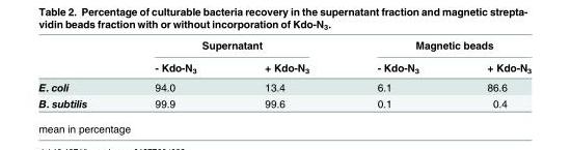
<table><thead><tr><td rowspan="2"></td><td colspan="2">Supernatant</td><td colspan="2">Magnetic beads</td></tr><tr><td>- Kdo-N<sub>3</sub></td><td>+ Kdo-N<sub>3</sub></td><td>- Kdo-N<sub>3</sub></td><td>+ Kdo-N<sub>3</sub></td></tr></thead><tbody><tr><td>E. coli</td><td>94.0</td><td>13.4</td><td>6.1</td><td>86.6</td></tr><tr><td>B. subtilis</td><td>99.9</td><td>99.6</td><td>0.1</td><td>0.4</td></tr></tbody></table>